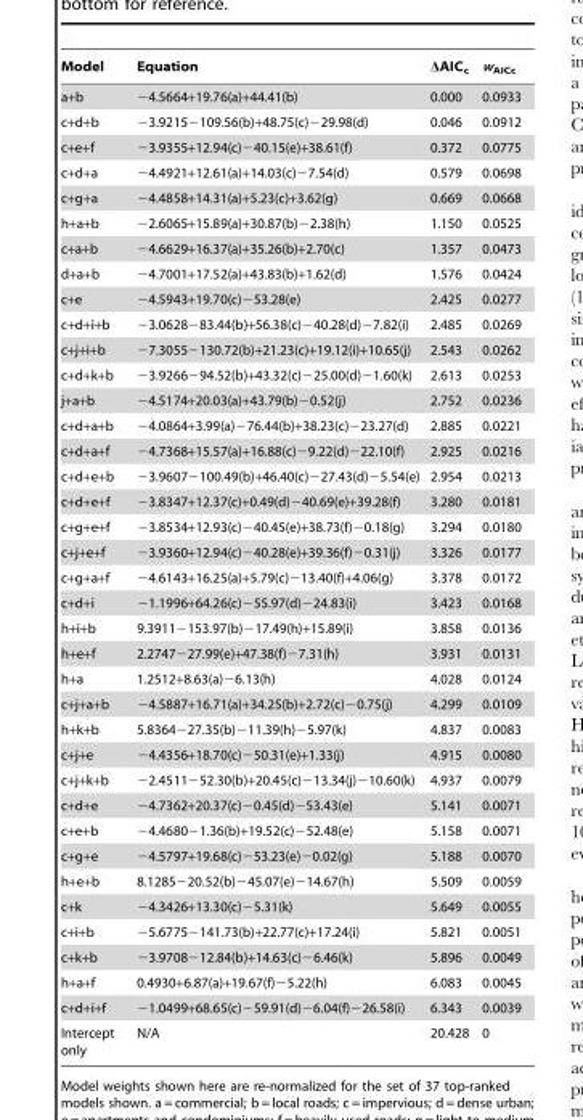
<table><thead><tr><td>Model</td><td>Equation</td><td>ΔAIC<sub>c</sub></td><td>w<sub>AICc</sub></td></tr></thead><tbody><tr><td>a+b</td><td>−4.5664+19.76(a)+44.41(b)</td><td>0.000</td><td>0.0933</td></tr><tr><td>c+d+b</td><td>−3.9215−109.56(b)+48.75(c)−29.98(d)</td><td>0.046</td><td>0.0912</td></tr><tr><td>c+e+f</td><td>−3.9355+12.94(c)−40.15(e)+38.61(f)</td><td>0.372</td><td>0.0775</td></tr><tr><td>c+d+a</td><td>−4.4921+12.61(a)+14.03(c)−7.54(d)</td><td>0.579</td><td>0.0698</td></tr><tr><td>c+g+a</td><td>−4.4858+14.31(a)+5.23(c)+3.62(g)</td><td>0.669</td><td>0.0668</td></tr><tr><td>h+a+b</td><td>−2.6065+15.89(a)+30.87(b)−2.38(h)</td><td>1.150</td><td>0.0525</td></tr><tr><td>c+a+b</td><td>−4.6629+16.37(a)+35.26(b)+2.70(c)</td><td>1.357</td><td>0.0473</td></tr><tr><td>d+a+b</td><td>−4.7001+17.52(a)+43.83(b)+1.62(d)</td><td>1.576</td><td>0.0424</td></tr><tr><td>c+e</td><td>−4.5943+19.70(c)−53.28(e)</td><td>2.425</td><td>0.0277</td></tr><tr><td>c+d+i+b</td><td>−3.0628−83.44(b)+56.38(c)−40.28(d)−7.82(i)</td><td>2.485</td><td>0.0269</td></tr><tr><td>c+j+i+b</td><td>−7.3055−130.72(b)+21.23(c)+19.12(i)+10.65(j)</td><td>2.543</td><td>0.0262</td></tr><tr><td>c+d+k+b</td><td>−3.9266−94.52(b)+43.32(c)−25.00(d)−1.60(k)</td><td>2.613</td><td>0.0253</td></tr><tr><td>j+a+b</td><td>−4.5174+20.03(a)+43.79(b)−0.52(j)</td><td>2.752</td><td>0.0236</td></tr><tr><td>c+d+a+b</td><td>−4.0864+3.99(a)−76.44(b)+38.23(c)−23.27(d)</td><td>2.885</td><td>0.0221</td></tr><tr><td>c+d+a+f</td><td>−4.7368+15.57(a)+16.88(c)−9.22(d)−22.10(f)</td><td>2.925</td><td>0.0216</td></tr><tr><td>c+d+e+b</td><td>−3.9607−100.49(b)+46.40(c)−27.43(d)−5.54(e)</td><td>2.954</td><td>0.0213</td></tr><tr><td>c+d+e+f</td><td>−3.8347+12.37(c)+0.49(d)−40.69(e)+39.28(f)</td><td>3.280</td><td>0.0181</td></tr><tr><td>c+g+e+f</td><td>−3.8534+12.93(c)−40.45(e)+38.73(f)−0.18(g)</td><td>3.294</td><td>0.0180</td></tr><tr><td>c+j+e+f</td><td>−3.9360+12.94(c)−40.28(e)+39.36(f)−0.31(j)</td><td>3.326</td><td>0.0177</td></tr><tr><td>c+g+a+f</td><td>−4.6143+16.25(a)+5.79(c)−13.40(f)+4.06(g)</td><td>3.378</td><td>0.0172</td></tr><tr><td>c+d+i</td><td>−1.1996+64.26(c)−55.97(d)−24.83(i)</td><td>3.423</td><td>0.0168</td></tr><tr><td>h+i+b</td><td>9.3911−153.97(b)−17.49(h)+15.89(i)</td><td>3.858</td><td>0.0136</td></tr><tr><td>h+e+f</td><td>2.2747−27.99(e)+47.38(f)−7.31(h)</td><td>3.931</td><td>0.0131</td></tr><tr><td>h+a</td><td>1.2512+8.63(a)−6.13(h)</td><td>4.028</td><td>0.0124</td></tr><tr><td>c+j+a+b</td><td>−4.5887+16.71(a)+34.25(b)+2.72(c)−0.75(j)</td><td>4.299</td><td>0.0109</td></tr><tr><td>h+k+b</td><td>5.8364−27.35(b)−11.39(h)−5.97(k)</td><td>4.837</td><td>0.0083</td></tr><tr><td>c+j+e</td><td>−4.4356+18.70(c)−50.31(e)+1.33(j)</td><td>4.915</td><td>0.0080</td></tr><tr><td>c+j+k+b</td><td>−2.4511−52.30(b)+20.45(c)−13.34(j)−10.60(k)</td><td>4.937</td><td>0.0079</td></tr><tr><td>c+d+e</td><td>−4.7362+20.37(c)−0.45(d)−53.43(e)</td><td>5.141</td><td>0.0071</td></tr><tr><td>c+e+b</td><td>−4.4680−1.36(b)+19.52(c)−52.48(e)</td><td>5.158</td><td>0.0071</td></tr><tr><td>c+g+e</td><td>−4.5797+19.68(c)−53.23(e)−0.02(g)</td><td>5.188</td><td>0.0070</td></tr><tr><td>h+e+b</td><td>8.1285−20.52(b)−45.07(e)−14.67(h)</td><td>5.509</td><td>0.0059</td></tr><tr><td>c+k</td><td>−4.3426+13.30(c)−5.31(k)</td><td>5.649</td><td>0.0055</td></tr><tr><td>c+i+b</td><td>−5.6775−141.73(b)+22.77(c)+17.24(i)</td><td>5.821</td><td>0.0051</td></tr><tr><td>c+k+b</td><td>−3.9708−12.84(b)+14.63(c)−6.46(k)</td><td>5.896</td><td>0.0049</td></tr><tr><td>h+a+f</td><td>0.4930+6.87(a)+19.67(f)−5.22(h)</td><td>6.083</td><td>0.0045</td></tr><tr><td>c+d+i+f</td><td>−1.0499+68.65(c)−59.91(d)−6.04(f)−26.58(i)</td><td>6.343</td><td>0.0039</td></tr><tr><td>Intercept only</td><td>N/A</td><td>20.428</td><td>0</td></tr></tbody></table>